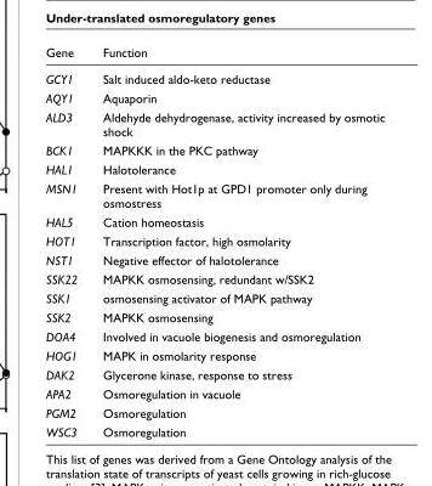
<table><thead><tr><td>Gene</td><td>Function</td></tr></thead><tbody><tr><td>GCY1</td><td>Salt induced aldo-keto reductase</td></tr><tr><td>AQY1</td><td>Aquaporin</td></tr><tr><td>ALD3</td><td>Aldehyde dehydrogenase, activity increased by osmotic shock</td></tr><tr><td>BCK1</td><td>MAPKKK in the PKC pathway</td></tr><tr><td>HAL1</td><td>Halotolerance</td></tr><tr><td>MSN1</td><td>Present with Hot1p at GPD1 promoter only during osmostress</td></tr><tr><td>HAL5</td><td>Cation homeostasis</td></tr><tr><td>HOT1</td><td>Transcription factor, high osmolarity</td></tr><tr><td>NST1</td><td>Negative effector of halotolerance</td></tr><tr><td>SSK22</td><td>MAPKK osmosensing, redundant w/SSK2</td></tr><tr><td>SSK1</td><td>osmosensing activator of MAPK pathway</td></tr><tr><td>SSK2</td><td>MAPKK osmosensing</td></tr><tr><td>DOA4</td><td>Involved in vacuole biogenesis and osmoregulation</td></tr><tr><td>HOG1</td><td>MAPK in osmolarity response</td></tr><tr><td>DAK2</td><td>Glycerone kinase, response to stress</td></tr><tr><td>APA2</td><td>Osmoregulation in vacuole</td></tr><tr><td>PGM2</td><td>Osmoregulation</td></tr><tr><td>WSC3</td><td>Osmoregulation</td></tr></tbody></table>